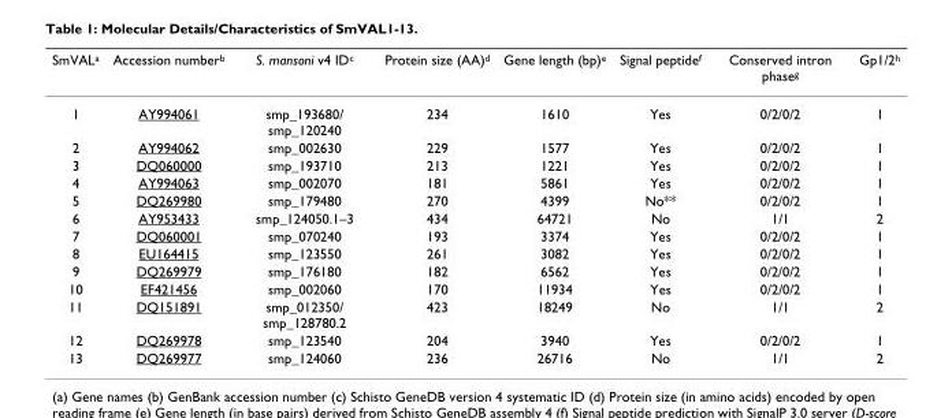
<table><thead><tr><td>SmVAL<sup>a</sup></td><td>Accession number<sup>b</sup></td><td>S. mansoni v4 ID<sup>c</sup></td><td>Protein size (AA)<sup>d</sup></td><td>Gene length (bp)<sup>e</sup></td><td>Signal peptide<sup>f</sup></td><td>Conserved intron phase<sup>g</sup></td><td>Gp1/2<sup>h</sup></td></tr></thead><tbody><tr><td>1</td><td>AY994061</td><td>smp_193680/ smp_120240</td><td>234</td><td>1610</td><td>Yes</td><td>0/2/0/2</td><td>1</td></tr><tr><td>2</td><td>AY994062</td><td>smp_002630</td><td>229</td><td>1577</td><td>Yes</td><td>0/2/0/2</td><td>1</td></tr><tr><td>3</td><td>DQ060000</td><td>smp_193710</td><td>213</td><td>1221</td><td>Yes</td><td>0/2/0/2</td><td>1</td></tr><tr><td>4</td><td>AY994063</td><td>smp_002070</td><td>181</td><td>5861</td><td>Yes</td><td>0/2/0/2</td><td>1</td></tr><tr><td>5</td><td>DQ269980</td><td>smp_179480</td><td>270</td><td>4399</td><td>No**</td><td>0/2/0/2</td><td>1</td></tr><tr><td>6</td><td>AY953433</td><td>smp_124050.1–3</td><td>434</td><td>64721</td><td>No</td><td>1/1</td><td>2</td></tr><tr><td>7</td><td>DQ060001</td><td>smp_070240</td><td>193</td><td>3374</td><td>Yes</td><td>0/2/0/2</td><td>1</td></tr><tr><td>8</td><td>EU164415</td><td>smp_123550</td><td>261</td><td>3082</td><td>Yes</td><td>0/2/0/2</td><td>1</td></tr><tr><td>9</td><td>DQ269979</td><td>smp_176180</td><td>182</td><td>6562</td><td>Yes</td><td>0/2/0/2</td><td>1</td></tr><tr><td>10</td><td>EF421456</td><td>smp_002060</td><td>170</td><td>11934</td><td>Yes</td><td>0/2/0/2</td><td>1</td></tr><tr><td>11</td><td>DQ151891</td><td>smp_012350/ smp_128780.2</td><td>423</td><td>18249</td><td>No</td><td>1/1</td><td>2</td></tr><tr><td>12</td><td>DQ269978</td><td>smp_123540</td><td>204</td><td>3940</td><td>Yes</td><td>0/2/0/2</td><td>1</td></tr><tr><td>13</td><td>DQ269977</td><td>smp_124060</td><td>236</td><td>26716</td><td>No</td><td>1/1</td><td>2</td></tr></tbody></table>